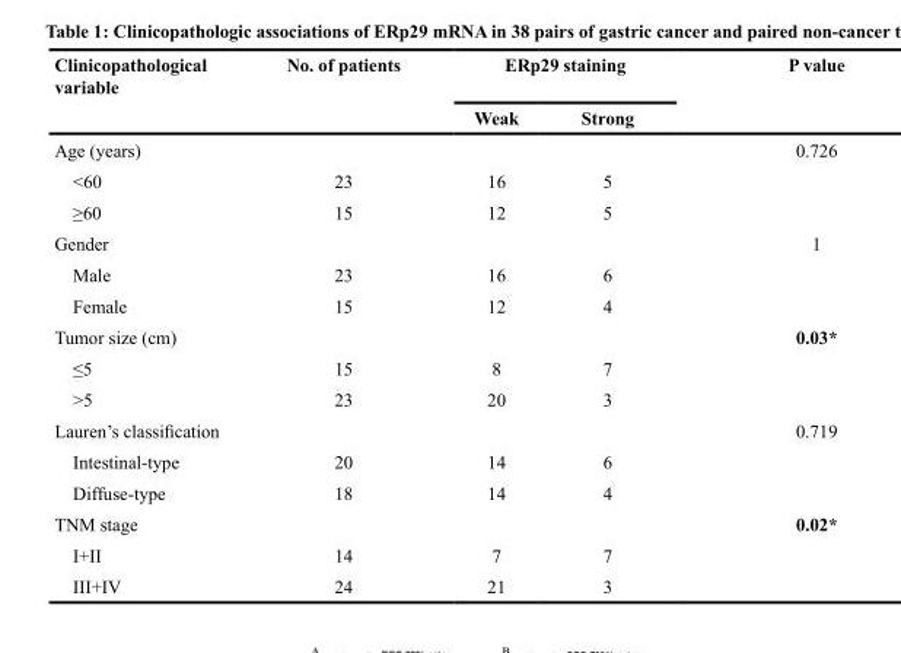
<table><thead><tr><td rowspan="2">Clinicopathological variable</td><td rowspan="2">No. of patients</td><td colspan="2">ERp29 staining</td><td rowspan="2">P value</td></tr><tr><td>Weak</td><td>Strong</td></tr></thead><tbody><tr><td>Age (years)</td><td></td><td></td><td></td><td>0.726</td></tr><tr><td>&lt;60</td><td>23</td><td>16</td><td>5</td><td></td></tr><tr><td>≥60</td><td>15</td><td>12</td><td>5</td><td></td></tr><tr><td>Gender</td><td></td><td></td><td></td><td>1</td></tr><tr><td>Male</td><td>23</td><td>16</td><td>6</td><td></td></tr><tr><td>Female</td><td>15</td><td>12</td><td>4</td><td></td></tr><tr><td>Tumor size (cm)</td><td></td><td></td><td></td><td>0.03*</td></tr><tr><td>≤5</td><td>15</td><td>8</td><td>7</td><td></td></tr><tr><td>&gt;5</td><td>23</td><td>20</td><td>3</td><td></td></tr><tr><td>Lauren’s classification</td><td></td><td></td><td></td><td>0.719</td></tr><tr><td>Intestinal-type</td><td>20</td><td>14</td><td>6</td><td></td></tr><tr><td>Diffuse-type</td><td>18</td><td>14</td><td>4</td><td></td></tr><tr><td>TNM stage</td><td></td><td></td><td></td><td>0.02*</td></tr><tr><td>I+II</td><td>14</td><td>7</td><td>7</td><td></td></tr><tr><td>III+IV</td><td>24</td><td>21</td><td>3</td><td></td></tr></tbody></table>